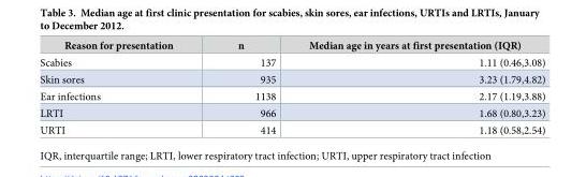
<table><thead><tr><td>Reason for presentation</td><td>n</td><td>Median age in years at first presentation (IQR)</td></tr></thead><tbody><tr><td>Scabies</td><td>137</td><td>1.11 (0.46,3.08)</td></tr><tr><td>Skin sores</td><td>935</td><td>3.23 (1.79,4.82)</td></tr><tr><td>Ear infections</td><td>1138</td><td>2.17 (1.19,3.88)</td></tr><tr><td>LRTI</td><td>966</td><td>1.68 (0.80,3.23)</td></tr><tr><td>URTI</td><td>414</td><td>1.18 (0.58,2.54)</td></tr></tbody></table>